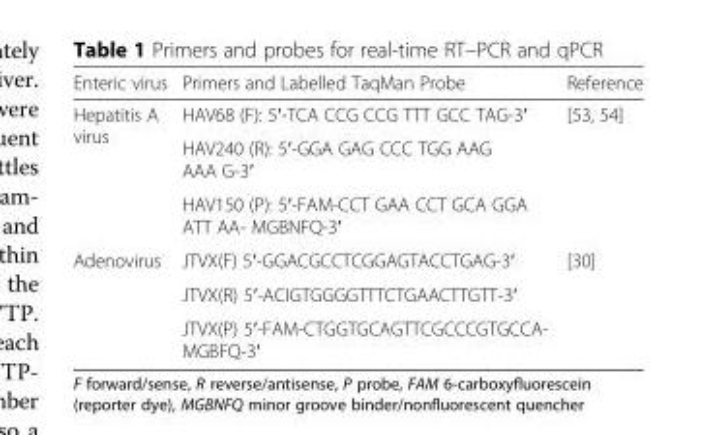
<table><thead><tr><td>Enteric virus</td><td>Primers and Labelled TaqMan Probe</td><td>Reference</td></tr></thead><tbody><tr><td rowspan="3">Hepatitis A virus</td><td>HAV68 (F): 5′-TCA CCG CCG TTT GCC TAG-3′</td><td rowspan="3">[53, 54]</td></tr><tr><td>HAV240 (R): 5′-GGA GAG CCC TGG AAG AAA G-3′</td></tr><tr><td>HAV150 (P): 5′-FAM-CCT GAA CCT GCA GGA ATT AA- MGBNFQ-3′</td></tr><tr><td rowspan="3">Adenovirus</td><td>JTVX(F) 5′-GGACGCCTCGGAGTACCTGAG-3′</td><td rowspan="3">[30]</td></tr><tr><td>JTVX(R) 5′-ACIGTGGGGTTTCTGAACTTGTT-3′</td></tr><tr><td>JTVX(P) 5′-FAM-CTGGTGCAGTTCGCCCGTGCCA- MGBFQ-3′</td></tr></tbody></table>